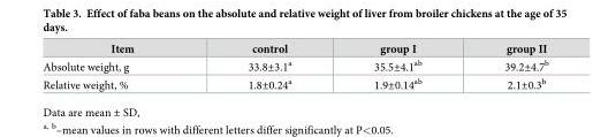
<table><thead><tr><td>Item</td><td>control</td><td>group I</td><td>group II</td></tr></thead><tbody><tr><td>Absolute weight, g</td><td>33.8±3.1<sup>a</sup></td><td>35.5±4.1<sup>ab</sup></td><td>39.2±4.7<sup>b</sup></td></tr><tr><td>Relative weight, %</td><td>1.8±0.24<sup>a</sup></td><td>1.9±0.14<sup>ab</sup></td><td>2.1±0.3<sup>b</sup></td></tr></tbody></table>